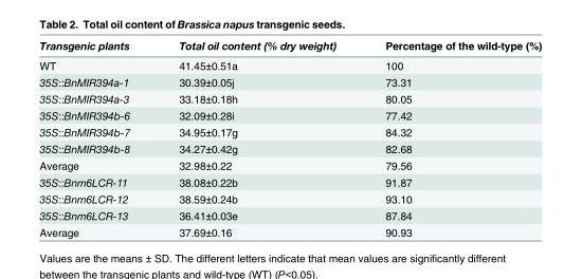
<table><thead><tr><td>Transgenic plants</td><td>Total oil content (% dry weight)</td><td>Percentage of the wild-type (%)</td></tr></thead><tbody><tr><td>WT</td><td>41.45±0.51a</td><td>100</td></tr><tr><td>35S::BnMIR394a-1</td><td>30.39±0.05j</td><td>73.31</td></tr><tr><td>35S::BnMIR394a-3</td><td>33.18±0.18h</td><td>80.05</td></tr><tr><td>35S::BnMIR394b-6</td><td>32.09±0.28i</td><td>77.42</td></tr><tr><td>35S::BnMIR394b-7</td><td>34.95±0.17g</td><td>84.32</td></tr><tr><td>35S::BnMIR394b-8</td><td>34.27±0.42g</td><td>82.68</td></tr><tr><td>Average</td><td>32.98±0.22</td><td>79.56</td></tr><tr><td>35S::Bnm6LCR-11</td><td>38.08±0.22b</td><td>91.87</td></tr><tr><td>35S::Bnm6LCR-12</td><td>38.59±0.24b</td><td>93.10</td></tr><tr><td>35S::Bnm6LCR-13</td><td>36.41±0.03e</td><td>87.84</td></tr><tr><td>Average</td><td>37.69±0.16</td><td>90.93</td></tr></tbody></table>